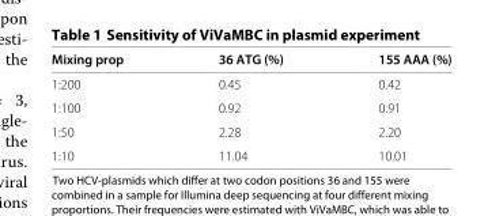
<table><thead><tr><td>Mixing prop</td><td>36 ATG (%)</td><td>155 AAA (%)</td></tr></thead><tbody><tr><td>1:200</td><td>0.45</td><td>0.42</td></tr><tr><td>1:100</td><td>0.92</td><td>0.91</td></tr><tr><td>1:50</td><td>2.28</td><td>2.20</td></tr><tr><td>1:10</td><td>11.04</td><td>10.01</td></tr></tbody></table>